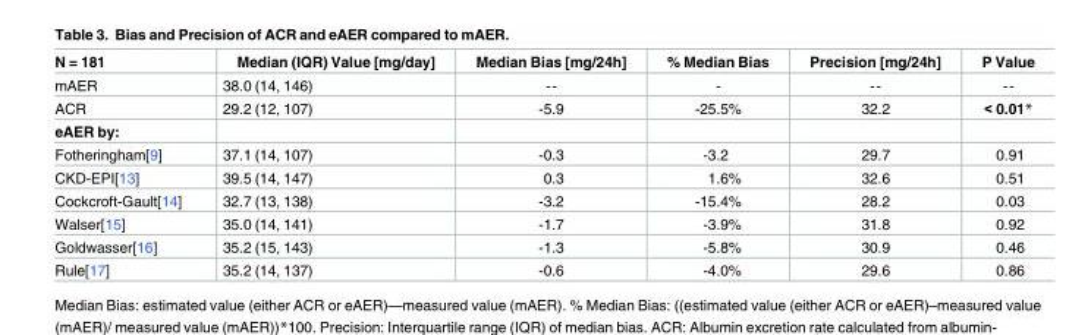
<table><thead><tr><td>N = 181</td><td>Median (IQR) Value [mg/day]</td><td>Median Bias [mg/24h]</td><td>% Median Bias</td><td>Precision [mg/24h]</td><td>P Value</td></tr></thead><tbody><tr><td>mAER</td><td>38.0 (14, 146)</td><td>--</td><td>-</td><td>--</td><td>--</td></tr><tr><td>ACR</td><td>29.2 (12, 107)</td><td>-5.9</td><td>-25.5%</td><td>32.2</td><td>&lt; 0.01*</td></tr><tr><td colspan="6">eAER by:</td></tr><tr><td>Fotheringham[9]</td><td>37.1 (14, 107)</td><td>-0.3</td><td>-3.2</td><td>29.7</td><td>0.91</td></tr><tr><td>CKD-EPI[13]</td><td>39.5 (14, 147)</td><td>0.3</td><td>1.6%</td><td>32.6</td><td>0.51</td></tr><tr><td>Cockcroft-Gault[14]</td><td>32.7 (13, 138)</td><td>-3.2</td><td>-15.4%</td><td>28.2</td><td>0.03</td></tr><tr><td>Walser[15]</td><td>35.0 (14, 141)</td><td>-1.7</td><td>-3.9%</td><td>31.8</td><td>0.92</td></tr><tr><td>Goldwasser[16]</td><td>35.2 (15, 143)</td><td>-1.3</td><td>-5.8%</td><td>30.9</td><td>0.46</td></tr><tr><td>Rule[17]</td><td>35.2 (14, 137)</td><td>-0.6</td><td>-4.0%</td><td>29.6</td><td>0.86</td></tr></tbody></table>